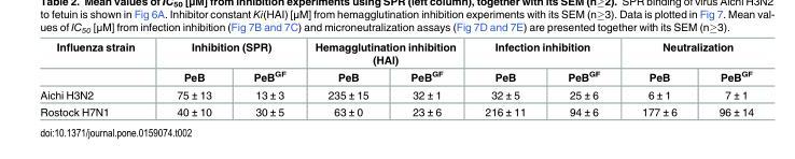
<table><thead><tr><td rowspan="2">Influenza strain</td><td colspan="2">Inhibition (SPR)</td><td colspan="2">Hemagglutination inhibition (HAI)</td><td colspan="2">Infection inhibition</td><td colspan="2">Neutralization</td></tr><tr><td>PeB</td><td>PeB<sup>GF</sup></td><td>PeB</td><td>PeB<sup>GF</sup></td><td>PeB</td><td>PeB<sup>GF</sup></td><td>PeB</td><td>PeB<sup>GF</sup></td></tr></thead><tbody><tr><td>Aichi H3N2</td><td>75 ± 13</td><td>13 ± 3</td><td>235 ± 15</td><td>32 ± 1</td><td>32 ± 5</td><td>25 ± 6</td><td>6 ± 1</td><td>7 ± 1</td></tr><tr><td>Rostock H7N1</td><td>40 ± 10</td><td>30 ± 5</td><td>63 ± 0</td><td>23 ± 6</td><td>216 ± 11</td><td>94 ± 6</td><td>177 ± 6</td><td>96 ± 14</td></tr></tbody></table>